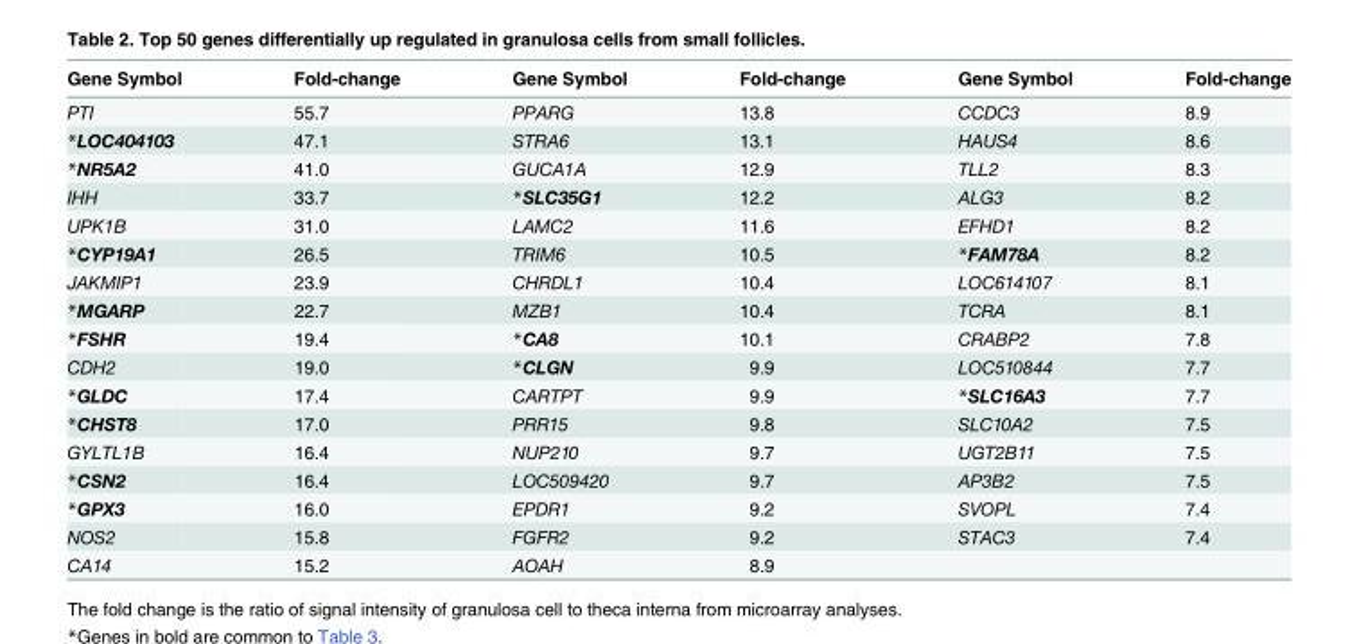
<table><thead><tr><td>Gene Symbol</td><td>Fold-change</td><td>Gene Symbol</td><td>Fold-change</td><td>Gene Symbol</td><td>Fold-change</td></tr></thead><tbody><tr><td>PTI</td><td>55.7</td><td>PPARG</td><td>13.8</td><td>CCDC3</td><td>8.9</td></tr><tr><td>*LOC404103</td><td>47.1</td><td>STRA6</td><td>13.1</td><td>HAUS4</td><td>8.6</td></tr><tr><td>*NR5A2</td><td>41.0</td><td>GUCA1A</td><td>12.9</td><td>TLL2</td><td>8.3</td></tr><tr><td>IHH</td><td>33.7</td><td>*SLC35G1</td><td>12.2</td><td>ALG3</td><td>8.2</td></tr><tr><td>UPK1B</td><td>31.0</td><td>LAMC2</td><td>11.6</td><td>EFHD1</td><td>8.2</td></tr><tr><td>*CYP19A1</td><td>26.5</td><td>TRIM6</td><td>10.5</td><td>*FAM78A</td><td>8.2</td></tr><tr><td>JAKMIP1</td><td>23.9</td><td>CHRDL1</td><td>10.4</td><td>LOC614107</td><td>8.1</td></tr><tr><td>*MGARP</td><td>22.7</td><td>MZB1</td><td>10.4</td><td>TCRA</td><td>8.1</td></tr><tr><td>*FSHR</td><td>19.4</td><td>*CA8</td><td>10.1</td><td>CRABP2</td><td>7.8</td></tr><tr><td>CDH2</td><td>19.0</td><td>*CLGN</td><td>9.9</td><td>LOC510844</td><td>7.7</td></tr><tr><td>*GLDC</td><td>17.4</td><td>CARTPT</td><td>9.9</td><td>*SLC16A3</td><td>7.7</td></tr><tr><td>*CHST8</td><td>17.0</td><td>PRR15</td><td>9.8</td><td>SLC10A2</td><td>7.5</td></tr><tr><td>GYLTL1B</td><td>16.4</td><td>NUP210</td><td>9.7</td><td>UGT2B11</td><td>7.5</td></tr><tr><td>*CSN2</td><td>16.4</td><td>LOC509420</td><td>9.7</td><td>AP3B2</td><td>7.5</td></tr><tr><td>*GPX3</td><td>16.0</td><td>EPDR1</td><td>9.2</td><td>SVOPL</td><td>7.4</td></tr><tr><td>NOS2</td><td>15.8</td><td>FGFR2</td><td>9.2</td><td>STAC3</td><td>7.4</td></tr><tr><td>CA14</td><td>15.2</td><td>AOAH</td><td>8.9</td><td></td><td></td></tr></tbody></table>